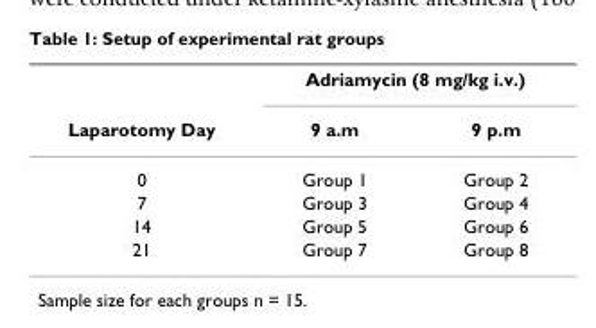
<table><thead><tr><td rowspan="2">Laparotomy Day</td><td colspan="2">Adriamycin (8 mg/kg i.v.)</td></tr><tr><td>9 a.m</td><td>9 p.m</td></tr></thead><tbody><tr><td>0</td><td>Group 1</td><td>Group 2</td></tr><tr><td>7</td><td>Group 3</td><td>Group 4</td></tr><tr><td>14</td><td>Group 5</td><td>Group 6</td></tr><tr><td>21</td><td>Group 7</td><td>Group 8</td></tr></tbody></table>